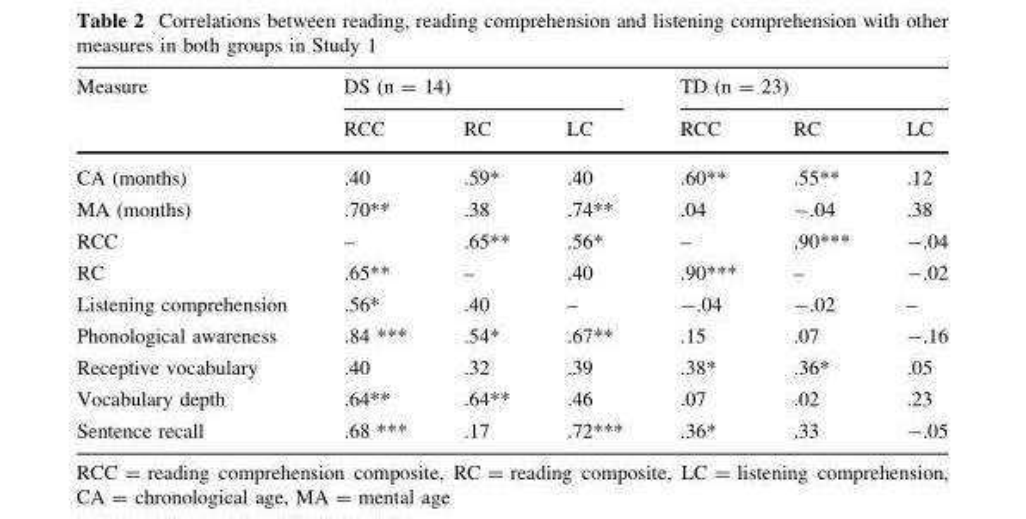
<table><thead><tr><td rowspan="2">Measure</td><td colspan="3">DS (n = 14)</td><td colspan="3">TD (n = 23)</td></tr><tr><td>RCC</td><td>RC</td><td>LC</td><td>RCC</td><td>RC</td><td>LC</td></tr></thead><tbody><tr><td>CA (months)</td><td>.40</td><td>.59*</td><td>.40</td><td>.60**</td><td>.55**</td><td>.12</td></tr><tr><td>MA (months)</td><td>.70**</td><td>.38</td><td>.74**</td><td>.04</td><td>-.04</td><td>.38</td></tr><tr><td>RCC</td><td>–</td><td>.65**</td><td>.56*</td><td>–</td><td>.90***</td><td>-.04</td></tr><tr><td>RC</td><td>.65**</td><td>–</td><td>.40</td><td>.90***</td><td>–</td><td>-.02</td></tr><tr><td>Listening comprehension</td><td>.56*</td><td>.40</td><td>–</td><td>-.04</td><td>-.02</td><td>–</td></tr><tr><td>Phonological awareness</td><td>.84 ***</td><td>.54*</td><td>.67**</td><td>.15</td><td>.07</td><td>-.16</td></tr><tr><td>Receptive vocabulary</td><td>.40</td><td>.32</td><td>.39</td><td>.38*</td><td>.36*</td><td>.05</td></tr><tr><td>Vocabulary depth</td><td>.64**</td><td>.64**</td><td>.46</td><td>.07</td><td>.02</td><td>.23</td></tr><tr><td>Sentence recall</td><td>.68 ***</td><td>.17</td><td>.72***</td><td>.36*</td><td>.33</td><td>-.05</td></tr></tbody></table>